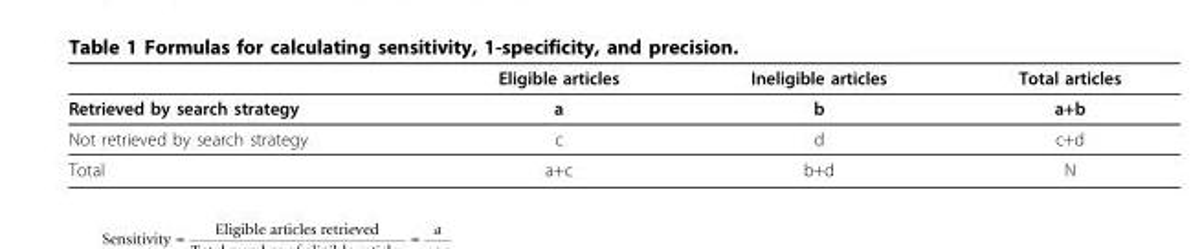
<table><thead><tr><td></td><td>Eligible articles</td><td>Ineligible articles</td><td>Total articles</td></tr></thead><tbody><tr><td>Retrieved by search strategy</td><td>a</td><td>b</td><td>a+b</td></tr><tr><td>Not retrieved by search strategy</td><td>c</td><td>d</td><td>c+d</td></tr><tr><td>Total</td><td>a+c</td><td>b+d</td><td>N</td></tr></tbody></table>